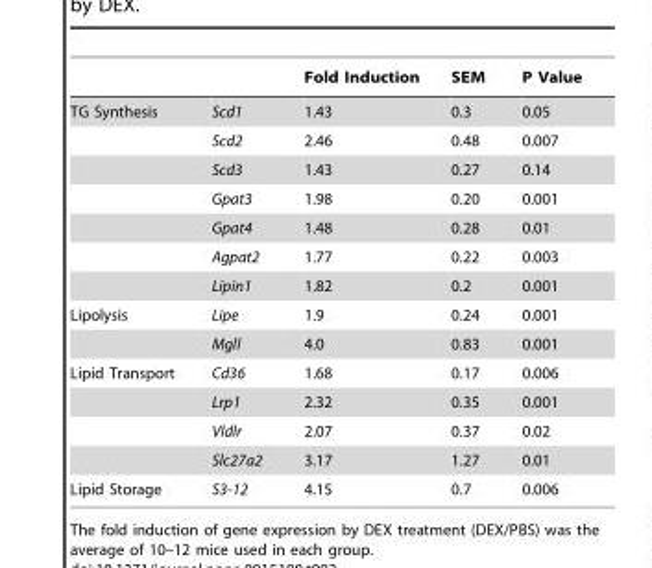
<table><thead><tr><td></td><td></td><td>Fold Induction</td><td>SEM</td><td>P Value</td></tr></thead><tbody><tr><td rowspan="7">TG Synthesis</td><td>Scd1</td><td>1.43</td><td>0.3</td><td>0.05</td></tr><tr><td>Scd2</td><td>2.46</td><td>0.48</td><td>0.007</td></tr><tr><td>Scd3</td><td>1.43</td><td>0.27</td><td>0.14</td></tr><tr><td>Gpat3</td><td>1.98</td><td>0.20</td><td>0.001</td></tr><tr><td>Gpat4</td><td>1.48</td><td>0.28</td><td>0.01</td></tr><tr><td>Agpat2</td><td>1.77</td><td>0.22</td><td>0.003</td></tr><tr><td>Lipin1</td><td>1.82</td><td>0.2</td><td>0.001</td></tr><tr><td rowspan="2">Lipolysis</td><td>Lipe</td><td>1.9</td><td>0.24</td><td>0.001</td></tr><tr><td>Mgll</td><td>4.0</td><td>0.83</td><td>0.001</td></tr><tr><td rowspan="4">Lipid Transport</td><td>Cd36</td><td>1.68</td><td>0.17</td><td>0.006</td></tr><tr><td>Lrp1</td><td>2.32</td><td>0.35</td><td>0.001</td></tr><tr><td>Vldlr</td><td>2.07</td><td>0.37</td><td>0.02</td></tr><tr><td>Slc27a2</td><td>3.17</td><td>1.27</td><td>0.01</td></tr><tr><td>Lipid Storage</td><td>S3-12</td><td>4.15</td><td>0.7</td><td>0.006</td></tr></tbody></table>